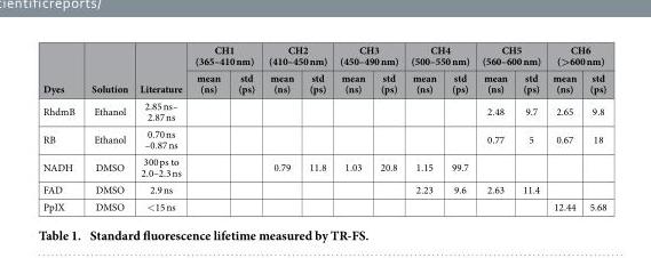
<table><thead><tr><td rowspan="2">Dyes</td><td rowspan="2">Solution</td><td rowspan="2">Literature</td><td colspan="2">CH1 (365–410 nm)</td><td colspan="2">CH2 (410–450 nm)</td><td colspan="2">CH3 (450–490 nm)</td><td colspan="2">CH4 (500–550 nm)</td><td colspan="2">CH5 (560–600 nm)</td><td colspan="2">CH6 (&gt;600 nm)</td></tr><tr><td>mean (ns)</td><td>std (ps)</td><td>mean (ns)</td><td>std (ps)</td><td>mean (ns)</td><td>std (ps)</td><td>mean (ns)</td><td>std (ps)</td><td>mean (ns)</td><td>std (ps)</td><td>mean (ns)</td><td>std (ps)</td></tr></thead><tbody><tr><td>RhdmB</td><td>Ethanol</td><td>2.85 ns– 2.87 ns</td><td></td><td></td><td></td><td></td><td></td><td></td><td></td><td></td><td>2.48</td><td>9.7</td><td>2.65</td><td>9.8</td></tr><tr><td>RB</td><td>Ethanol</td><td>0.70 ns –0.87 ns</td><td></td><td></td><td></td><td></td><td></td><td></td><td></td><td></td><td>0.77</td><td>5</td><td>0.67</td><td>18</td></tr><tr><td>NADH</td><td>DMSO</td><td>300 ps to 2.0–2.3 ns</td><td></td><td></td><td>0.79</td><td>11.8</td><td>1.03</td><td>20.8</td><td>1.15</td><td>99.7</td><td></td><td></td><td></td><td></td></tr><tr><td>FAD</td><td>DMSO</td><td>2.9 ns</td><td></td><td></td><td></td><td></td><td></td><td></td><td>2.23</td><td>9.6</td><td>2.63</td><td>11.4</td><td></td><td></td></tr><tr><td>PpIX</td><td>DMSO</td><td>&lt; 15 ns</td><td></td><td></td><td></td><td></td><td></td><td></td><td></td><td></td><td></td><td></td><td>12.44</td><td>5.68</td></tr></tbody></table>